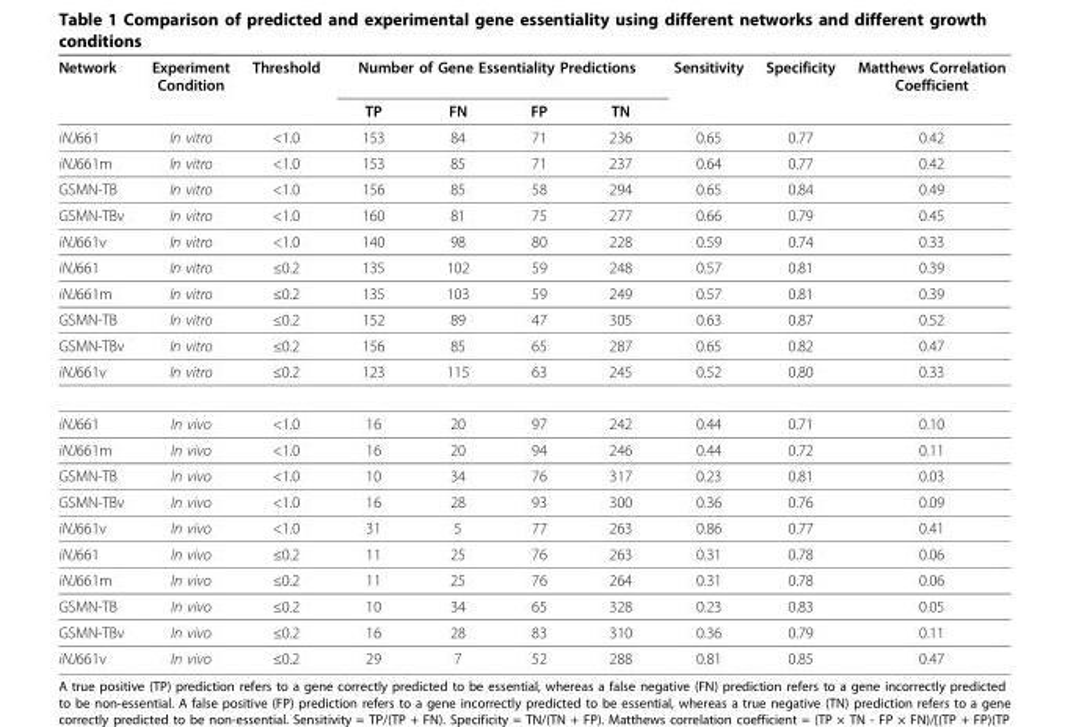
<table><thead><tr><td rowspan="2">Network</td><td rowspan="2">Experiment Condition</td><td rowspan="2">Threshold</td><td colspan="4">Number of Gene Essentiality Predictions</td><td rowspan="2">Sensitivity</td><td rowspan="2">Specificity</td><td rowspan="2">Matthews Correlation Coefficient</td></tr><tr><td>TP</td><td>FN</td><td>FP</td><td>TN</td></tr></thead><tbody><tr><td>iNJ661</td><td>In vitro</td><td>&lt;1.0</td><td>153</td><td>84</td><td>71</td><td>236</td><td>0.65</td><td>0.77</td><td>0.42</td></tr><tr><td>iNJ661m</td><td>In vitro</td><td>&lt;1.0</td><td>153</td><td>85</td><td>71</td><td>237</td><td>0.64</td><td>0.77</td><td>0.42</td></tr><tr><td>GSMN-TB</td><td>In vitro</td><td>&lt;1.0</td><td>156</td><td>85</td><td>58</td><td>294</td><td>0.65</td><td>0.84</td><td>0.49</td></tr><tr><td>GSMN-TBv</td><td>In vitro</td><td>&lt;1.0</td><td>160</td><td>81</td><td>75</td><td>277</td><td>0.66</td><td>0.79</td><td>0.45</td></tr><tr><td>iNJ661v</td><td>In vitro</td><td>&lt;1.0</td><td>140</td><td>98</td><td>80</td><td>228</td><td>0.59</td><td>0.74</td><td>0.33</td></tr><tr><td>iNJ661</td><td>In vitro</td><td>≤0.2</td><td>135</td><td>102</td><td>59</td><td>248</td><td>0.57</td><td>0.81</td><td>0.39</td></tr><tr><td>iNJ661m</td><td>In vitro</td><td>≤0.2</td><td>135</td><td>103</td><td>59</td><td>249</td><td>0.57</td><td>0.81</td><td>0.39</td></tr><tr><td>GSMN-TB</td><td>In vitro</td><td>≤0.2</td><td>152</td><td>89</td><td>47</td><td>305</td><td>0.63</td><td>0.87</td><td>0.52</td></tr><tr><td>GSMN-TBv</td><td>In vitro</td><td>≤0.2</td><td>156</td><td>85</td><td>65</td><td>287</td><td>0.65</td><td>0.82</td><td>0.47</td></tr><tr><td>iNJ661v</td><td>In vitro</td><td>≤0.2</td><td>123</td><td>115</td><td>63</td><td>245</td><td>0.52</td><td>0.80</td><td>0.33</td></tr><tr><td>iNJ661</td><td>In vivo</td><td>&lt;1.0</td><td>16</td><td>20</td><td>97</td><td>242</td><td>0.44</td><td>0.71</td><td>0.10</td></tr><tr><td>iNJ661m</td><td>In vivo</td><td>&lt;1.0</td><td>16</td><td>20</td><td>94</td><td>246</td><td>0.44</td><td>0.72</td><td>0.11</td></tr><tr><td>GSMN-TB</td><td>In vivo</td><td>&lt;1.0</td><td>10</td><td>34</td><td>76</td><td>317</td><td>0.23</td><td>0.81</td><td>0.03</td></tr><tr><td>GSMN-TBv</td><td>In vivo</td><td>&lt;1.0</td><td>16</td><td>28</td><td>93</td><td>300</td><td>0.36</td><td>0.76</td><td>0.09</td></tr><tr><td>iNJ661v</td><td>In vivo</td><td>&lt;1.0</td><td>31</td><td>5</td><td>77</td><td>263</td><td>0.86</td><td>0.77</td><td>0.41</td></tr><tr><td>iNJ661</td><td>In vivo</td><td>≤0.2</td><td>11</td><td>25</td><td>76</td><td>263</td><td>0.31</td><td>0.78</td><td>0.06</td></tr><tr><td>iNJ661m</td><td>In vivo</td><td>≤0.2</td><td>11</td><td>25</td><td>76</td><td>264</td><td>0.31</td><td>0.78</td><td>0.06</td></tr><tr><td>GSMN-TB</td><td>In vivo</td><td>≤0.2</td><td>10</td><td>34</td><td>65</td><td>328</td><td>0.23</td><td>0.83</td><td>0.05</td></tr><tr><td>GSMN-TBv</td><td>In vivo</td><td>≤0.2</td><td>16</td><td>28</td><td>83</td><td>310</td><td>0.36</td><td>0.79</td><td>0.11</td></tr><tr><td>iNJ661v</td><td>In vivo</td><td>≤0.2</td><td>29</td><td>7</td><td>52</td><td>288</td><td>0.81</td><td>0.85</td><td>0.47</td></tr></tbody></table>